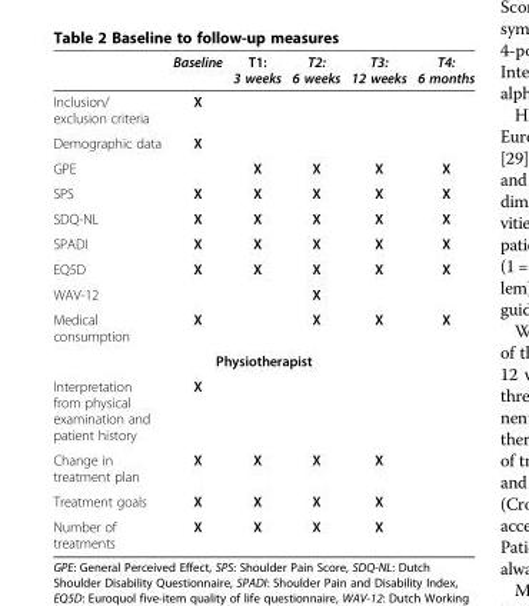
<table><thead><tr><td></td><td>Baseline</td><td>T1: 3 weeks</td><td>T2: 6 weeks</td><td>T3: 12 weeks</td><td>T4: 6 months</td></tr></thead><tbody><tr><td>Inclusion/ exclusion criteria</td><td>X</td><td></td><td></td><td></td><td></td></tr><tr><td>Demographic data</td><td>X</td><td></td><td></td><td></td><td></td></tr><tr><td>GPE</td><td></td><td>X</td><td>X</td><td>X</td><td>X</td></tr><tr><td>SPS</td><td>X</td><td>X</td><td>X</td><td>X</td><td>X</td></tr><tr><td>SDQ-NL</td><td>X</td><td>X</td><td>X</td><td>X</td><td>X</td></tr><tr><td>SPADI</td><td>X</td><td>X</td><td>X</td><td>X</td><td>X</td></tr><tr><td>EQ5D</td><td>X</td><td>X</td><td>X</td><td>X</td><td>X</td></tr><tr><td>WAV-12</td><td></td><td></td><td>X</td><td></td><td></td></tr><tr><td>Medical consumption</td><td>X</td><td></td><td>X</td><td>X</td><td>X</td></tr><tr><td colspan="6">Physiotherapist</td></tr><tr><td>Interpretation from physical examination and patient history</td><td>X</td><td></td><td></td><td></td><td></td></tr><tr><td>Change in treatment plan</td><td>X</td><td>X</td><td>X</td><td>X</td><td></td></tr><tr><td>Treatment goals</td><td>X</td><td>X</td><td>X</td><td>X</td><td></td></tr><tr><td>Number of treatments</td><td>X</td><td>X</td><td>X</td><td>X</td><td></td></tr></tbody></table>